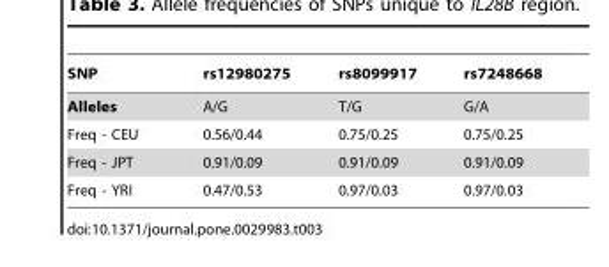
<table><thead><tr><td>SNP</td><td>rs12980275</td><td>rs8099917</td><td>rs7248668</td></tr></thead><tbody><tr><td>Alleles</td><td>A/G</td><td>T/G</td><td>G/A</td></tr><tr><td>Freq - CEU</td><td>0.56/0.44</td><td>0.75/0.25</td><td>0.75/0.25</td></tr><tr><td>Freq - JPT</td><td>0.91/0.09</td><td>0.91/0.09</td><td>0.91/0.09</td></tr><tr><td>Freq - YRI</td><td>0.47/0.53</td><td>0.97/0.03</td><td>0.97/0.03</td></tr></tbody></table>